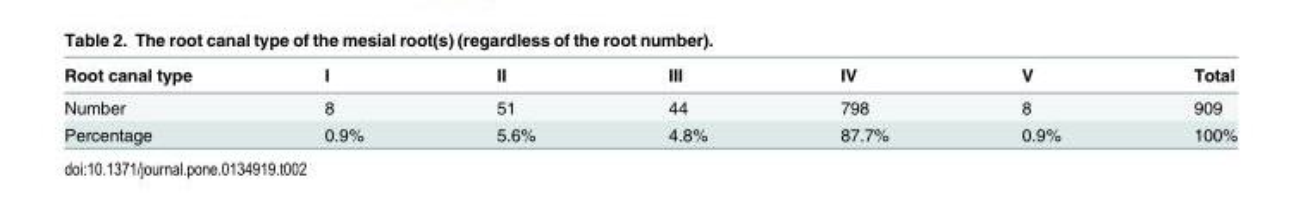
<table><thead><tr><td>Root canal type</td><td>I</td><td>II</td><td>III</td><td>IV</td><td>V</td><td>Total</td></tr></thead><tbody><tr><td>Number</td><td>8</td><td>51</td><td>44</td><td>798</td><td>8</td><td>909</td></tr><tr><td>Percentage</td><td>0.9%</td><td>5.6%</td><td>4.8%</td><td>87.7%</td><td>0.9%</td><td>100%</td></tr></tbody></table>